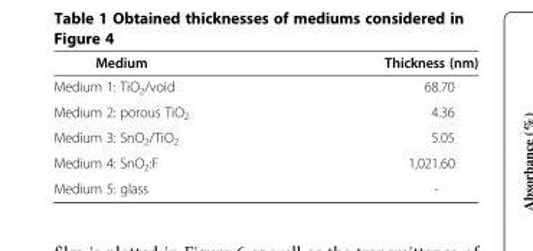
<table><thead><tr><td>Medium</td><td>Thickness (nm)</td></tr></thead><tbody><tr><td>Medium 1: TiO<sub>2</sub>/void</td><td>68.70</td></tr><tr><td>Medium 2: porous TiO<sub>2</sub></td><td>4.36</td></tr><tr><td>Medium 3: SnO<sub>2</sub>/TiO<sub>2</sub></td><td>5.05</td></tr><tr><td>Medium 4: SnO<sub>2</sub>:F</td><td>1,021.60</td></tr><tr><td>Medium 5: glass</td><td>-</td></tr></tbody></table>